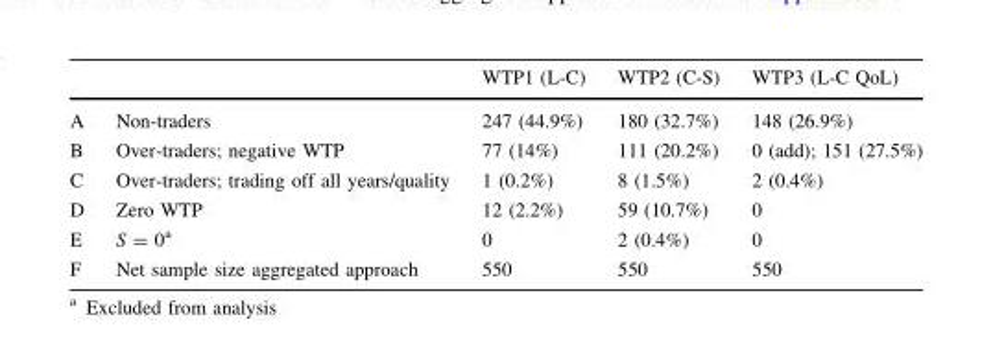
<table><thead><tr><td></td><td></td><td>WTP1 (L-C)</td><td>WTP2 (C-S)</td><td>WTP3 (L-C QoL)</td></tr></thead><tbody><tr><td>A</td><td>Non-traders</td><td>247 (44.9%)</td><td>180 (32.7%)</td><td>148 (26.9%)</td></tr><tr><td>B</td><td>Over-traders; negative WTP</td><td>77 (14%)</td><td>111 (20.2%)</td><td>0 (add); 151 (27.5%)</td></tr><tr><td>C</td><td>Over-traders; trading off all years/quality</td><td>1 (0.2%)</td><td>8 (1.5%)</td><td>2 (0.4%)</td></tr><tr><td>D</td><td>Zero WTP</td><td>12 (2.2%)</td><td>59 (10.7%)</td><td>0</td></tr><tr><td>E</td><td>S = 0<sup>a</sup></td><td>0</td><td>2 (0.4%)</td><td>0</td></tr><tr><td>F</td><td>Net sample size aggregated approach</td><td>550</td><td>550</td><td>550</td></tr></tbody></table>